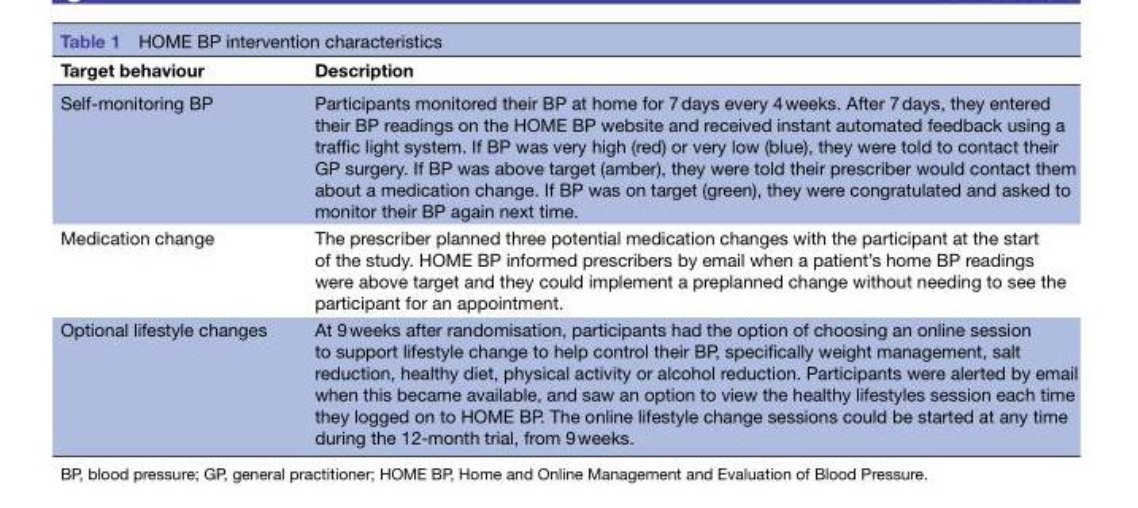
<table><thead><tr><td>Target behaviour</td><td>Description</td></tr></thead><tbody><tr><td>Self-monitoring BP</td><td>Participants monitored their BP at home for 7 days every 4 weeks. After 7 days, they entered their BP readings on the HOME BP website and received instant automated feedback using a traffic light system. If BP was very high (red) or very low (blue), they were told to contact their GP surgery. If BP was above target (amber), they were told their prescriber would contact them about a medication change. If BP was on target (green), they were congratulated and asked to monitor their BP again next time.</td></tr><tr><td>Medication change</td><td>The prescriber planned three potential medication changes with the participant at the start of the study. HOME BP informed prescribers by email when a patient’s home BP readings were above target and they could implement a preplanned change without needing to see the participant for an appointment.</td></tr><tr><td>Optional lifestyle changes</td><td>At 9 weeks after randomisation, participants had the option of choosing an online session to support lifestyle change to help control their BP, specifically weight management, salt reduction, healthy diet, physical activity or alcohol reduction. Participants were alerted by email when this became available, and saw an option to view the healthy lifestyles session each time they logged on to HOME BP. The online lifestyle change sessions could be started at any time during the 12-month trial, from 9 weeks.</td></tr></tbody></table>